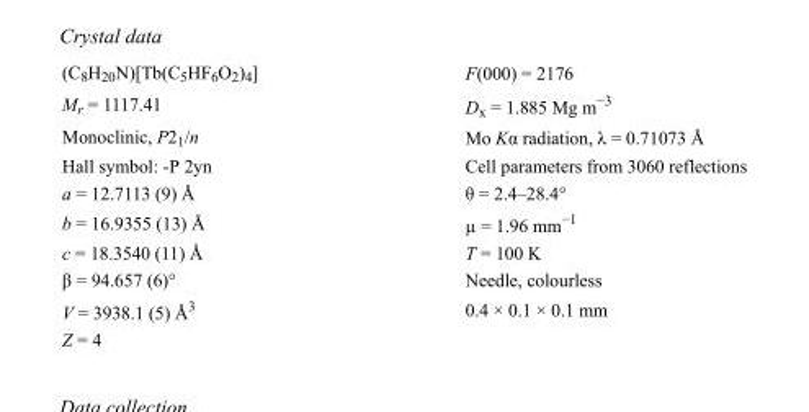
<table><tbody><tr><td>(C<sub>8</sub>H<sub>20</sub>N)[Tb(C<sub>5</sub>HF<sub>6</sub>O<sub>2</sub>)<sub>4</sub>]</td><td>F(000) = 2176</td></tr><tr><td>M<sub>r</sub> = 1117.41</td><td>D<sub>x</sub> = 1.885 Mg m<sup>−3</sup></td></tr><tr><td>Monoclinic, P2<sub>1</sub>/n</td><td>Mo Kα radiation, λ = 0.71073 Å</td></tr><tr><td>Hall symbol: -P 2yn</td><td>Cell parameters from 3060 reflections</td></tr><tr><td>a = 12.7113 (9) Å</td><td>θ = 2.4–28.4°</td></tr><tr><td>b = 16.9355 (13) Å</td><td>µ = 1.96 mm<sup>−1</sup></td></tr><tr><td>c = 18.3540 (11) Å</td><td>T = 100 K</td></tr><tr><td>β = 94.657 (6)°</td><td>Needle, colourless</td></tr><tr><td>V = 3938.1 (5) Å<sup>3</sup></td><td>0.4 × 0.1 × 0.1 mm</td></tr><tr><td>Z = 4</td><td></td></tr></tbody></table>